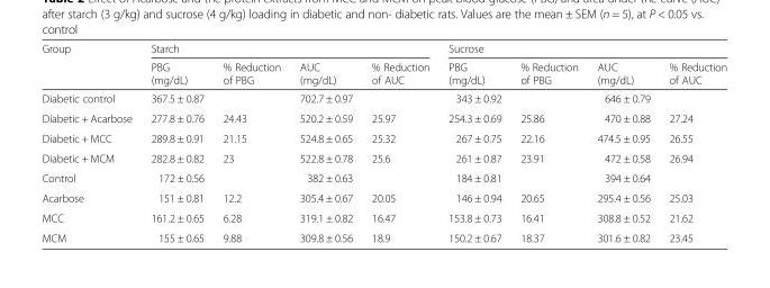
<table><thead><tr><td rowspan="2">Group</td><td colspan="4">Starch</td><td colspan="4">Sucrose</td></tr><tr><td>PBG (mg/dL)</td><td>% Reduction of PBG</td><td>AUC (mg/dL)</td><td>% Reduction of AUC</td><td>PBG (mg/dL)</td><td>% Reduction of PBG</td><td>AUC (mg/dL)</td><td>% Reduction of AUC</td></tr></thead><tbody><tr><td>Diabetic control</td><td>367.5 ± 0.87</td><td></td><td>702.7 ± 0.97</td><td></td><td>343 ± 0.92</td><td></td><td>646 ± 0.79</td><td></td></tr><tr><td>Diabetic + Acarbose</td><td>277.8 ± 0.76</td><td>24.43</td><td>520.2 ± 0.59</td><td>25.97</td><td>254.3 ± 0.69</td><td>25.86</td><td>470 ± 0.88</td><td>27.24</td></tr><tr><td>Diabetic + MCC</td><td>289.8 ± 0.91</td><td>21.15</td><td>524.8 ± 0.65</td><td>25.32</td><td>267 ± 0.75</td><td>22.16</td><td>474.5 ± 0.95</td><td>26.55</td></tr><tr><td>Diabetic + MCM</td><td>282.8 ± 0.82</td><td>23</td><td>522.8 ± 0.78</td><td>25.6</td><td>261 ± 0.87</td><td>23.91</td><td>472 ± 0.58</td><td>26.94</td></tr><tr><td>Control</td><td>172 ± 0.56</td><td></td><td>382 ± 0.63</td><td></td><td>184 ± 0.81</td><td></td><td>394 ± 0.64</td><td></td></tr><tr><td>Acarbose</td><td>151 ± 0.81</td><td>12.2</td><td>305.4 ± 0.67</td><td>20.05</td><td>146 ± 0.94</td><td>20.65</td><td>295.4 ± 0.56</td><td>25.03</td></tr><tr><td>MCC</td><td>161.2 ± 0.65</td><td>6.28</td><td>319.1 ± 0.82</td><td>16.47</td><td>153.8 ± 0.73</td><td>16.41</td><td>308.8 ± 0.52</td><td>21.62</td></tr><tr><td>MCM</td><td>155 ± 0.65</td><td>9.88</td><td>309.8 ± 0.56</td><td>18.9</td><td>150.2 ± 0.67</td><td>18.37</td><td>301.6 ± 0.82</td><td>23.45</td></tr></tbody></table>